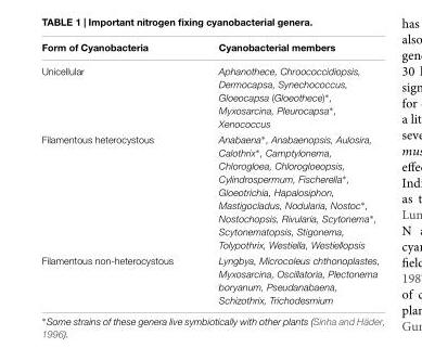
<table><thead><tr><td>Form of Cyanobacteria</td><td>Cyanobacterial members</td></tr></thead><tbody><tr><td>Unicellular</td><td>Aphanothece, Chroococcidiopsis, Dermocapsa, Synechococcus, Gloeocapsa (Gloeothece)∗, Myxosarcina, Pleurocapsa∗, Xenococcus</td></tr><tr><td>Filamentous heterocystous</td><td>Anabaena∗, Anabaenopsis, Aulosira, Calothrix∗, Camptylonema, Chlorogloea, Chlorogloeopsis, Cylindrospermum, Fischerella∗, Gloeotrichia, Hapalosiphon, Mastigocladus, Nodularia, Nostoc∗, Nostochopsis, Rivularia, Scytonema∗, Scytonematopsis, Stigonema, Tolypothrix, Westiella, Westiellopsis</td></tr><tr><td>Filamentous non-heterocystous</td><td>Lyngbya, Microcoleus chthonoplastes, Myxosarcina, Oscillatoria, Plectonema boryanum, Pseudanabaena, Schizothrix, Trichodesmium</td></tr></tbody></table>